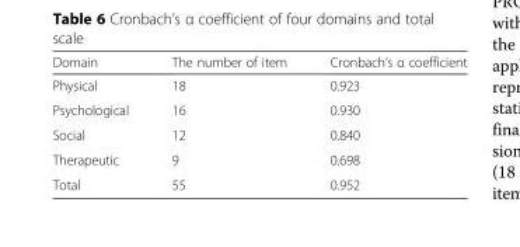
<table><thead><tr><td>Domain</td><td>The number of item</td><td>Cronbach’s α coefficient</td></tr></thead><tbody><tr><td>Physical</td><td>18</td><td>0.923</td></tr><tr><td>Psychological</td><td>16</td><td>0.930</td></tr><tr><td>Social</td><td>12</td><td>0.840</td></tr><tr><td>Therapeutic</td><td>9</td><td>0.698</td></tr><tr><td>Total</td><td>55</td><td>0.952</td></tr></tbody></table>